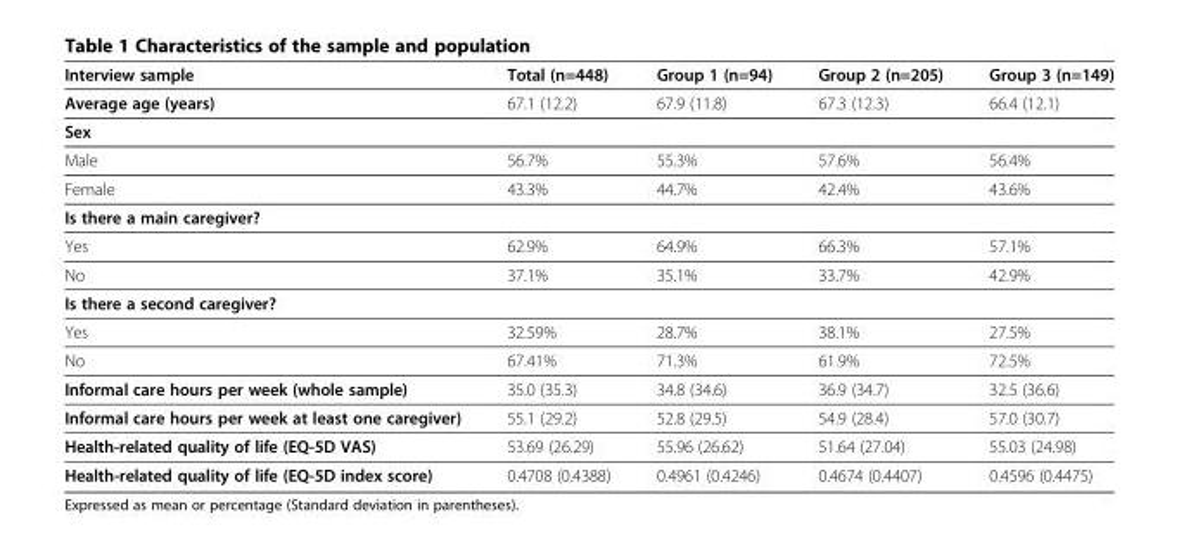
<table><thead><tr><td>Interview sample</td><td>Total (n=448)</td><td>Group 1 (n=94)</td><td>Group 2 (n=205)</td><td>Group 3 (n=149)</td></tr></thead><tbody><tr><td>Average age (years)</td><td>67.1 (12.2)</td><td>67.9 (11.8)</td><td>67.3 (12.3)</td><td>66.4 (12.1)</td></tr><tr><td colspan="5">Sex</td></tr><tr><td>Male</td><td>56.7%</td><td>55.3%</td><td>57.6%</td><td>56.4%</td></tr><tr><td>Female</td><td>43.3%</td><td>44.7%</td><td>42.4%</td><td>43.6%</td></tr><tr><td colspan="5">Is there a main caregiver?</td></tr><tr><td>Yes</td><td>62.9%</td><td>64.9%</td><td>66.3%</td><td>57.1%</td></tr><tr><td>No</td><td>37.1%</td><td>35.1%</td><td>33.7%</td><td>42.9%</td></tr><tr><td colspan="5">Is there a second caregiver?</td></tr><tr><td>Yes</td><td>32.59%</td><td>28.7%</td><td>38.1%</td><td>27.5%</td></tr><tr><td>No</td><td>67.41%</td><td>71.3%</td><td>61.9%</td><td>72.5%</td></tr><tr><td>Informal care hours per week (whole sample)</td><td>35.0 (35.3)</td><td>34.8 (34.6)</td><td>36.9 (34.7)</td><td>32.5 (36.6)</td></tr><tr><td>Informal care hours per week at least one caregiver)</td><td>55.1 (29.2)</td><td>52.8 (29.5)</td><td>54.9 (28.4)</td><td>57.0 (30.7)</td></tr><tr><td>Health-related quality of life (EQ-5D VAS)</td><td>53.69 (26.29)</td><td>55.96 (26.62)</td><td>51.64 (27.04)</td><td>55.03 (24.98)</td></tr><tr><td>Health-related quality of life (EQ-5D index score)</td><td>0.4708 (0.4388)</td><td>0.4961 (0.4246)</td><td>0.4674 (0.4407)</td><td>0.4596 (0.4475)</td></tr></tbody></table>